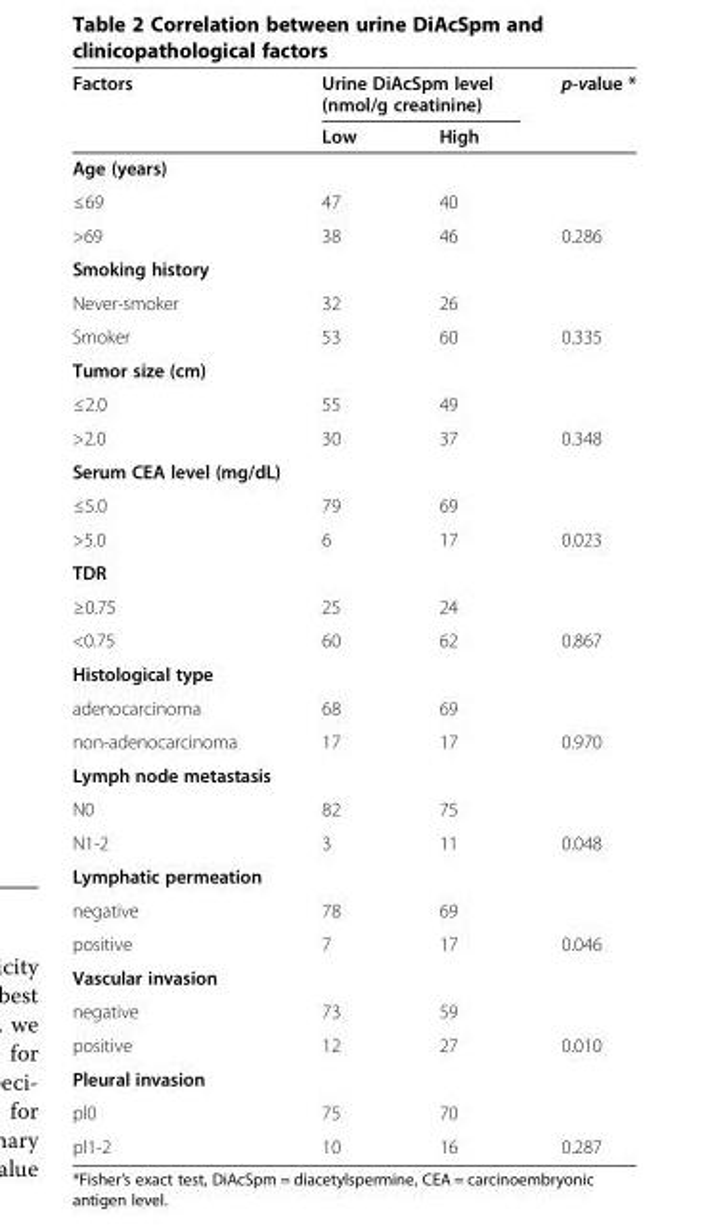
<table><thead><tr><td rowspan="2">Factors</td><td colspan="2">Urine DiAcSpm level (nmol/g creatinine)</td><td rowspan="2">p-value *</td></tr><tr><td>Low</td><td>High</td></tr></thead><tbody><tr><td colspan="4">Age (years)</td></tr><tr><td>≤69</td><td>47</td><td>40</td><td></td></tr><tr><td>&gt;69</td><td>38</td><td>46</td><td>0.286</td></tr><tr><td colspan="4">Smoking history</td></tr><tr><td>Never-smoker</td><td>32</td><td>26</td><td></td></tr><tr><td>Smoker</td><td>53</td><td>60</td><td>0.335</td></tr><tr><td colspan="4">Tumor size (cm)</td></tr><tr><td>≤2.0</td><td>55</td><td>49</td><td></td></tr><tr><td>&gt;2.0</td><td>30</td><td>37</td><td>0.348</td></tr><tr><td colspan="4">Serum CEA level (mg/dL)</td></tr><tr><td>≤5.0</td><td>79</td><td>69</td><td></td></tr><tr><td>&gt;5.0</td><td>6</td><td>17</td><td>0.023</td></tr><tr><td colspan="4">TDR</td></tr><tr><td>≥0.75</td><td>25</td><td>24</td><td></td></tr><tr><td>&lt;0.75</td><td>60</td><td>62</td><td>0.867</td></tr><tr><td colspan="4">Histological type</td></tr><tr><td>adenocarcinoma</td><td>68</td><td>69</td><td></td></tr><tr><td>non-adenocarcinoma</td><td>17</td><td>17</td><td>0.970</td></tr><tr><td colspan="4">Lymph node metastasis</td></tr><tr><td>N0</td><td>82</td><td>75</td><td></td></tr><tr><td>N1-2</td><td>3</td><td>11</td><td>0.048</td></tr><tr><td colspan="4">Lymphatic permeation</td></tr><tr><td>negative</td><td>78</td><td>69</td><td></td></tr><tr><td>positive</td><td>7</td><td>17</td><td>0.046</td></tr><tr><td colspan="4">Vascular invasion</td></tr><tr><td>negative</td><td>73</td><td>59</td><td></td></tr><tr><td>positive</td><td>12</td><td>27</td><td>0.010</td></tr><tr><td colspan="4">Pleural invasion</td></tr><tr><td>pl0</td><td>75</td><td>70</td><td></td></tr><tr><td>pl1-2</td><td>10</td><td>16</td><td>0.287</td></tr></tbody></table>